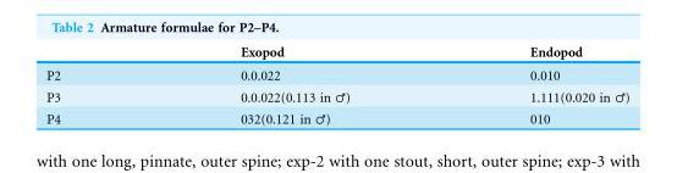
<table><thead><tr><td></td><td>Exopod</td><td>Endopod</td></tr></thead><tbody><tr><td>P2</td><td>0.0.022</td><td>0.010</td></tr><tr><td>P3</td><td>0.0.022(0.113 in ♂)</td><td>1.111(0.020 in ♂)</td></tr><tr><td>P4</td><td>032(0.121 in ♂)</td><td>010</td></tr></tbody></table>